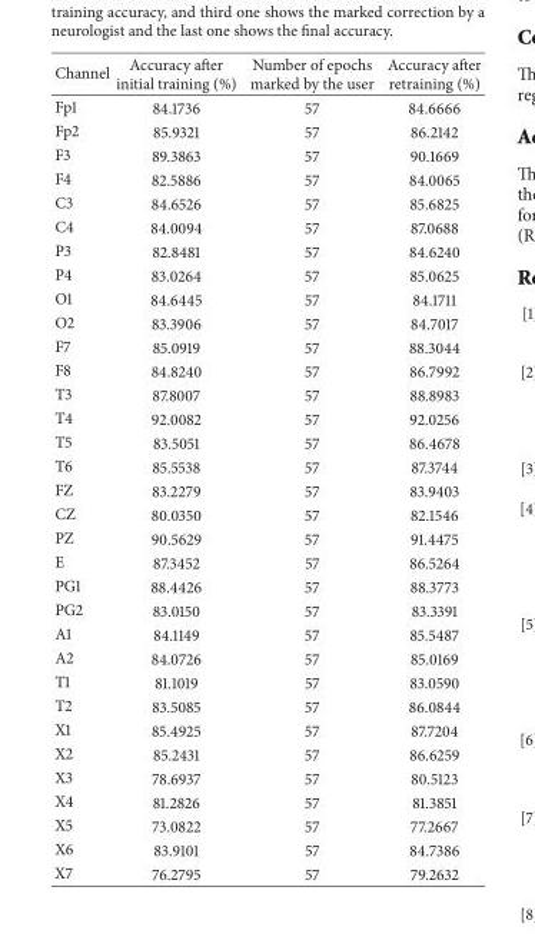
<table><thead><tr><td>Channel</td><td>Accuracy after initial training (%)</td><td>Number of epochs marked by the user</td><td>Accuracy after retraining (%)</td></tr></thead><tbody><tr><td>Fp1</td><td>84.1736</td><td>57</td><td>84.6666</td></tr><tr><td>Fp2</td><td>85.9321</td><td>57</td><td>86.2142</td></tr><tr><td>F3</td><td>89.3863</td><td>57</td><td>90.1669</td></tr><tr><td>F4</td><td>82.5886</td><td>57</td><td>84.0065</td></tr><tr><td>C3</td><td>84.6526</td><td>57</td><td>85.6825</td></tr><tr><td>C4</td><td>84.0094</td><td>57</td><td>87.0688</td></tr><tr><td>P3</td><td>82.8481</td><td>57</td><td>84.6240</td></tr><tr><td>P4</td><td>83.0264</td><td>57</td><td>85.0625</td></tr><tr><td>O1</td><td>84.6445</td><td>57</td><td>84.1711</td></tr><tr><td>O2</td><td>83.3906</td><td>57</td><td>84.7017</td></tr><tr><td>F7</td><td>85.0919</td><td>57</td><td>88.3044</td></tr><tr><td>F8</td><td>84.8240</td><td>57</td><td>86.7992</td></tr><tr><td>T3</td><td>87.8007</td><td>57</td><td>88.8983</td></tr><tr><td>T4</td><td>92.0082</td><td>57</td><td>92.0256</td></tr><tr><td>T5</td><td>83.5051</td><td>57</td><td>86.4678</td></tr><tr><td>T6</td><td>85.5538</td><td>57</td><td>87.3744</td></tr><tr><td>FZ</td><td>83.2279</td><td>57</td><td>83.9403</td></tr><tr><td>CZ</td><td>80.0350</td><td>57</td><td>82.1546</td></tr><tr><td>PZ</td><td>90.5629</td><td>57</td><td>91.4475</td></tr><tr><td>E</td><td>87.3452</td><td>57</td><td>86.5264</td></tr><tr><td>PG1</td><td>88.4426</td><td>57</td><td>88.3773</td></tr><tr><td>PG2</td><td>83.0150</td><td>57</td><td>83.3391</td></tr><tr><td>A1</td><td>84.1149</td><td>57</td><td>85.5487</td></tr><tr><td>A2</td><td>84.0726</td><td>57</td><td>85.0169</td></tr><tr><td>T1</td><td>81.1019</td><td>57</td><td>83.0590</td></tr><tr><td>T2</td><td>83.5085</td><td>57</td><td>86.0844</td></tr><tr><td>X1</td><td>85.4925</td><td>57</td><td>87.7204</td></tr><tr><td>X2</td><td>85.2431</td><td>57</td><td>86.6259</td></tr><tr><td>X3</td><td>78.6937</td><td>57</td><td>80.5123</td></tr><tr><td>X4</td><td>81.2826</td><td>57</td><td>81.3851</td></tr><tr><td>X5</td><td>73.0822</td><td>57</td><td>77.2667</td></tr><tr><td>X6</td><td>83.9101</td><td>57</td><td>84.7386</td></tr><tr><td>X7</td><td>76.2795</td><td>57</td><td>79.2632</td></tr></tbody></table>